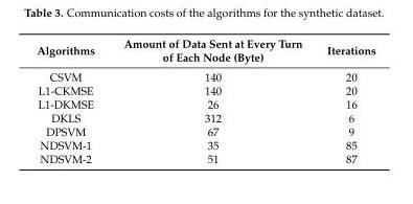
<table><thead><tr><td>Algorithms</td><td>Amount of Data Sent at Every Turn of Each Node (Byte)</td><td>Iterations</td></tr></thead><tbody><tr><td>CSVM</td><td>140</td><td>20</td></tr><tr><td>L1-CKMSE</td><td>140</td><td>20</td></tr><tr><td>L1-DKMSE</td><td>26</td><td>16</td></tr><tr><td>DKLS</td><td>312</td><td>6</td></tr><tr><td>DPSVM</td><td>67</td><td>9</td></tr><tr><td>NDSVM-1</td><td>35</td><td>85</td></tr><tr><td>NDSVM-2</td><td>51</td><td>87</td></tr></tbody></table>